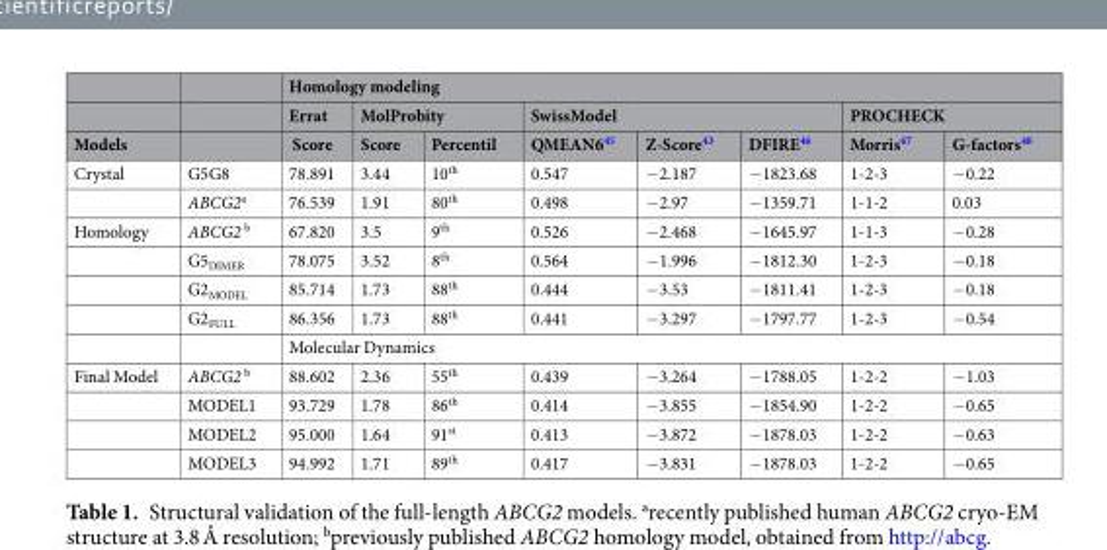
<table><thead><tr><td rowspan="3">Models</td><td rowspan="3"></td><td colspan="8">Homology modeling</td></tr><tr><td rowspan="2">Errat Score</td><td colspan="2">MolProbity</td><td colspan="3">SwissModel</td><td colspan="2">PROCHECK</td></tr><tr><td>Score</td><td>Percentil</td><td>QMEAN6<sup>45</sup></td><td>Z-Score<sup>43</sup></td><td>DFIRE<sup>46</sup></td><td>Morris<sup>47</sup></td><td>G-factors<sup>48</sup></td></tr></thead><tbody><tr><td rowspan="2">Crystal</td><td>G5G8</td><td>78.891</td><td>3.44</td><td>10<sup>th</sup></td><td>0.547</td><td>−2.187</td><td>−1823.68</td><td>1-2-3</td><td>−0.22</td></tr><tr><td>ABCG2<sup>a</sup></td><td>76.539</td><td>1.91</td><td>80<sup>th</sup></td><td>0.498</td><td>−2.97</td><td>−1359.71</td><td>1-1-2</td><td>0.03</td></tr><tr><td rowspan="5">Homology</td><td>ABCG2 <sup>b</sup></td><td>67.820</td><td>3.5</td><td>9<sup>th</sup></td><td>0.526</td><td>−2.468</td><td>−1645.97</td><td>1-1-3</td><td>−0.28</td></tr><tr><td>G5<sub>DIMER</sub></td><td>78.075</td><td>3.52</td><td>8<sup>th</sup></td><td>0.564</td><td>−1.996</td><td>−1812.30</td><td>1-2-3</td><td>−0.18</td></tr><tr><td>G2<sub>MODEL</sub></td><td>85.714</td><td>1.73</td><td>88<sup>th</sup></td><td>0.444</td><td>−3.53</td><td>−1811.41</td><td>1-2-3</td><td>−0.18</td></tr><tr><td>G2<sub>FULL</sub></td><td>86.356</td><td>1.73</td><td>88<sup>th</sup></td><td>0.441</td><td>−3.297</td><td>−1797.77</td><td>1-2-3</td><td>−0.54</td></tr><tr><td></td><td colspan="8">Molecular Dynamics</td></tr><tr><td rowspan="4">Final Model</td><td>ABCG2 <sup>b</sup></td><td>88.602</td><td>2.36</td><td>55<sup>th</sup></td><td>0.439</td><td>−3.264</td><td>−1788.05</td><td>1-2-2</td><td>−1.03</td></tr><tr><td>MODEL1</td><td>93.729</td><td>1.78</td><td>86<sup>th</sup></td><td>0.414</td><td>−3.855</td><td>−1854.90</td><td>1-2-2</td><td>−0.65</td></tr><tr><td>MODEL2</td><td>95.000</td><td>1.64</td><td>91<sup>st</sup></td><td>0.413</td><td>−3.872</td><td>−1878.03</td><td>1-2-2</td><td>−0.63</td></tr><tr><td>MODEL3</td><td>94.992</td><td>1.71</td><td>89<sup>th</sup></td><td>0.417</td><td>−3.831</td><td>−1878.03</td><td>1-2-2</td><td>−0.65</td></tr></tbody></table>